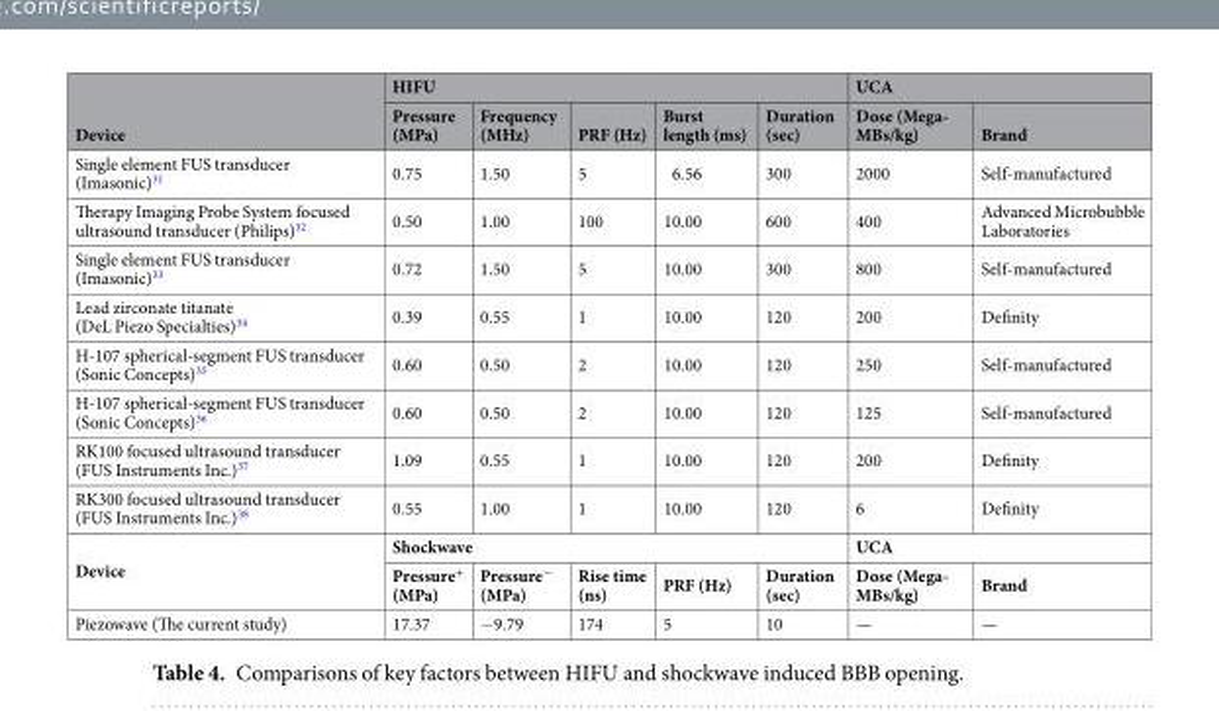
<table><thead><tr><td rowspan="2">Device</td><td colspan="5">HIFU</td><td colspan="2">UCA</td></tr><tr><td>Pressure (MPa)</td><td>Frequency (MHz)</td><td>PRF (Hz)</td><td>Burst length (ms)</td><td>Duration (sec)</td><td>Dose (Mega- MBs/kg)</td><td>Brand</td></tr></thead><tbody><tr><td>Single element FUS transducer (Imasonic)<sup>31</sup></td><td>0.75</td><td>1.50</td><td>5</td><td>6.56</td><td>300</td><td>2000</td><td>Self-manufactured</td></tr><tr><td>Therapy Imaging Probe System focused ultrasound transducer (Philips)<sup>32</sup></td><td>0.50</td><td>1.00</td><td>100</td><td>10.00</td><td>600</td><td>400</td><td>Advanced Microbubble Laboratories</td></tr><tr><td>Single element FUS transducer (Imasonic)<sup>33</sup></td><td>0.72</td><td>1.50</td><td>5</td><td>10.00</td><td>300</td><td>800</td><td>Self-manufactured</td></tr><tr><td>Lead zirconate titanate (DeL Piezo Specialties)<sup>34</sup></td><td>0.39</td><td>0.55</td><td>1</td><td>10.00</td><td>120</td><td>200</td><td>Definity</td></tr><tr><td>H-107 spherical-segment FUS transducer (Sonic Concepts)<sup>35</sup></td><td>0.60</td><td>0.50</td><td>2</td><td>10.00</td><td>120</td><td>250</td><td>Self-manufactured</td></tr><tr><td>H-107 spherical-segment FUS transducer (Sonic Concepts)<sup>36</sup></td><td>0.60</td><td>0.50</td><td>2</td><td>10.00</td><td>120</td><td>125</td><td>Self-manufactured</td></tr><tr><td>RK100 focused ultrasound transducer (FUS Instruments Inc.)<sup>37</sup></td><td>1.09</td><td>0.55</td><td>1</td><td>10.00</td><td>120</td><td>200</td><td>Definity</td></tr><tr><td>RK300 focused ultrasound transducer (FUS Instruments Inc.)<sup>38</sup></td><td>0.55</td><td>1.00</td><td>1</td><td>10.00</td><td>120</td><td>6</td><td>Definity</td></tr><tr><td rowspan="2">Device</td><td colspan="5">Shockwave</td><td colspan="2">UCA</td></tr><tr><td>Pressure<sup>+</sup> (MPa)</td><td>Pressure<sup>−</sup> (MPa)</td><td>Rise time (ns)</td><td>PRF (Hz)</td><td>Duration (sec)</td><td>Dose (Mega- MBs/kg)</td><td>Brand</td></tr><tr><td>Piezowave (The current study)</td><td>17.37</td><td>−9.79</td><td>174</td><td>5</td><td>10</td><td>—</td><td>—</td></tr></tbody></table>